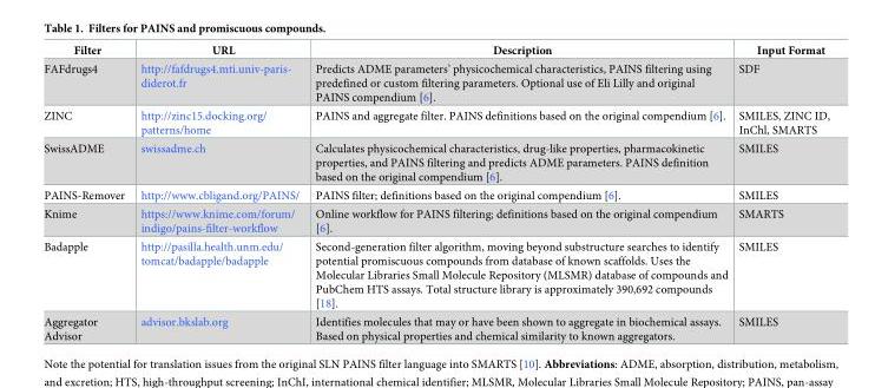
<table><thead><tr><td>Filter</td><td>URL</td><td>Description</td><td>Input Format</td></tr></thead><tbody><tr><td>FAFdrugs4</td><td>http://fafdrugs4.mti.univ-paris- diderot.fr</td><td>Predicts ADME parameters’ physicochemical characteristics, PAINS filtering using predefined or custom filtering parameters. Optional use of Eli Lilly and original PAINS compendium [6].</td><td>SDF</td></tr><tr><td>ZINC</td><td>http://zinc15.docking.org/ patterns/home</td><td>PAINS and aggregate filter. PAINS definitions based on the original compendium [6].</td><td>SMILES, ZINC ID, InChl, SMARTS</td></tr><tr><td>SwissADME</td><td>swissadme.ch</td><td>Calculates physicochemical characteristics, drug-like properties, pharmacokinetic properties, and PAINS filtering and predicts ADME parameters. PAINS definition based on the original compendium [6].</td><td>SMILES</td></tr><tr><td>PAINS-Remover</td><td>http://www.cbligand.org/PAINS/</td><td>PAINS filter; definitions based on the original compendium [6].</td><td>SMILES</td></tr><tr><td>Knime</td><td>https://www.knime.com/forum/ indigo/pains-filter-workflow</td><td>Online workflow for PAINS filtering; definitions based on the original compendium [6].</td><td>SMARTS</td></tr><tr><td>Badapple</td><td>http://pasilla.health.unm.edu/ tomcat/badapple/badapple</td><td>Second-generation filter algorithm, moving beyond substructure searches to identify potential promiscuous compounds from database of known scaffolds. Uses the Molecular Libraries Small Molecule Repository (MLSMR) database of compounds and PubChem HTS assays. Total structure library is approximately 390,692 compounds [18].</td><td>SMILES</td></tr><tr><td>Aggregator Advisor</td><td>advisor.bkslab.org</td><td>Identifies molecules that may or have been shown to aggregate in biochemical assays. Based on physical properties and chemical similarity to known aggregators.</td><td>SMILES</td></tr></tbody></table>